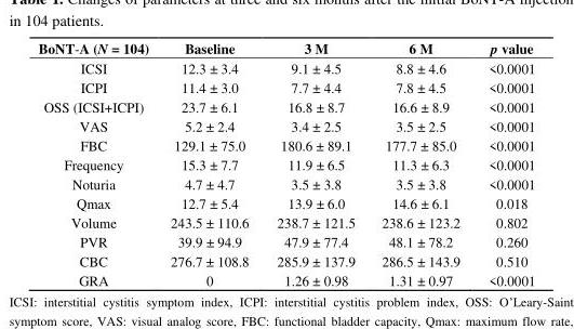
<table><thead><tr><td>BoNT-A (N = 104)</td><td>Baseline</td><td>3 M</td><td>6 M</td><td>p value</td></tr></thead><tbody><tr><td>ICSI</td><td>12.3 ± 3.4</td><td>9.1 ± 4.5</td><td>8.8 ± 4.6</td><td>&lt;0.0001</td></tr><tr><td>ICPI</td><td>11.4 ± 3.0</td><td>7.7 ± 4.4</td><td>7.8 ± 4.5</td><td>&lt;0.0001</td></tr><tr><td>OSS (ICSI+ICPI)</td><td>23.7 ± 6.1</td><td>16.8 ± 8.7</td><td>16.6 ± 8.9</td><td>&lt;0.0001</td></tr><tr><td>VAS</td><td>5.2 ± 2.4</td><td>3.4 ± 2.5</td><td>3.5 ± 2.5</td><td>&lt;0.0001</td></tr><tr><td>FBC</td><td>129.1 ± 75.0</td><td>180.6 ± 89.1</td><td>177.7 ± 85.0</td><td>&lt;0.0001</td></tr><tr><td>Frequency</td><td>15.3 ± 7.7</td><td>11.9 ± 6.5</td><td>11.3 ± 6.3</td><td>&lt;0.0001</td></tr><tr><td>Noturia</td><td>4.7 ± 4.7</td><td>3.5 ± 3.8</td><td>3.5 ± 3.8</td><td>&lt;0.0001</td></tr><tr><td>Qmax</td><td>12.7 ± 5.4</td><td>13.9 ± 6.0</td><td>14.6 ± 6.1</td><td>0.018</td></tr><tr><td>Volume</td><td>243.5 ± 110.6</td><td>238.7 ± 121.5</td><td>238.6 ± 123.2</td><td>0.802</td></tr><tr><td>PVR</td><td>39.9 ± 94.9</td><td>47.9 ± 77.4</td><td>48.1 ± 78.2</td><td>0.260</td></tr><tr><td>CBC</td><td>276.7 ± 108.8</td><td>285.9 ± 137.9</td><td>286.5 ± 143.9</td><td>0.510</td></tr><tr><td>GRA</td><td>0</td><td>1.26 ± 0.98</td><td>1.31 ± 0.97</td><td>&lt;0.0001</td></tr></tbody></table>